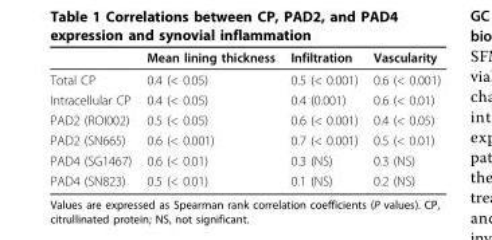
<table><thead><tr><td></td><td>Mean lining thickness</td><td>Infiltration</td><td>Vascularity</td></tr></thead><tbody><tr><td>Total CP</td><td>0.4 (&lt; 0.05)</td><td>0.5 (&lt; 0.001)</td><td>0.6 (&lt; 0.001)</td></tr><tr><td>Intracellular CP</td><td>0.4 (&lt; 0.05)</td><td>0.4 (0.001)</td><td>0.6 (&lt; 0.01)</td></tr><tr><td>PAD2 (ROI002)</td><td>0.5 (&lt; 0.05)</td><td>0.6 (&lt; 0.001)</td><td>0.4 (&lt; 0.05)</td></tr><tr><td>PAD2 (SN665)</td><td>0.6 (&lt; 0.001)</td><td>0.7 (&lt; 0.001)</td><td>0.5 (&lt; 0.01)</td></tr><tr><td>PAD4 (SG1467)</td><td>0.6 (&lt; 0.01)</td><td>0.3 (NS)</td><td>0.3 (NS)</td></tr><tr><td>PAD4 (SN823)</td><td>0.5 (&lt; 0.01)</td><td>0.1 (NS)</td><td>0.2 (NS)</td></tr></tbody></table>